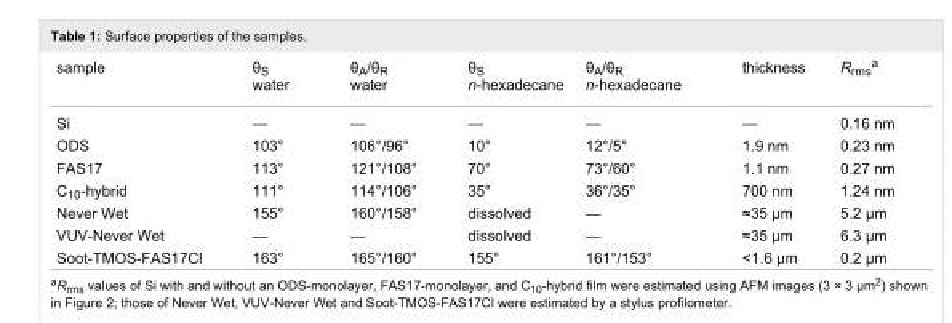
<table><tbody><tr><td>sample</td><td>θ<sub>S</sub> water</td><td>θ<sub>A</sub>/θ<sub>R</sub> water</td><td>θ<sub>S</sub> n-hexadecane</td><td>θ<sub>A</sub>/θ<sub>R</sub> n-hexadecane</td><td>thickness</td><td>R<sub>rms</sub><sup>a</sup></td></tr><tr><td>Si</td><td>—</td><td>—</td><td>—</td><td>—</td><td>—</td><td>0.16 nm</td></tr><tr><td>ODS</td><td>103°</td><td>106°/96°</td><td>10°</td><td>12°/5°</td><td>1.9 nm</td><td>0.23 nm</td></tr><tr><td>FAS17</td><td>113°</td><td>121°/108°</td><td>70°</td><td>73°/60°</td><td>1.1 nm</td><td>0.27 nm</td></tr><tr><td>C<sub>10</sub>-hybrid</td><td>111°</td><td>114°/106°</td><td>35°</td><td>36°/35°</td><td>700 nm</td><td>1.24 nm</td></tr><tr><td>Never Wet</td><td>155°</td><td>160°/158°</td><td>dissolved</td><td>—</td><td>≈35 μm</td><td>5.2 μm</td></tr><tr><td>VUV-Never Wet</td><td>—</td><td>—</td><td>dissolved</td><td>—</td><td>≈35 μm</td><td>6.3 μm</td></tr><tr><td>Soot-TMOS-FAS17Cl</td><td>163°</td><td>165°/160°</td><td>155°</td><td>161°/153°</td><td>&lt;1.6 μm</td><td>0.2 μm</td></tr></tbody></table>